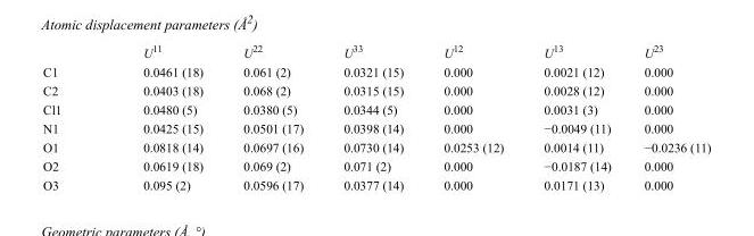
<table><thead><tr><td></td><td>U<sup>11</sup></td><td>U<sup>22</sup></td><td>U<sup>33</sup></td><td>U<sup>12</sup></td><td>U<sup>13</sup></td><td>U<sup>23</sup></td></tr></thead><tbody><tr><td>C1</td><td>0.0461 (18)</td><td>0.061 (2)</td><td>0.0321 (15)</td><td>0.000</td><td>0.0021 (12)</td><td>0.000</td></tr><tr><td>C2</td><td>0.0403 (18)</td><td>0.068 (2)</td><td>0.0315 (15)</td><td>0.000</td><td>0.0028 (12)</td><td>0.000</td></tr><tr><td>Cl1</td><td>0.0480 (5)</td><td>0.0380 (5)</td><td>0.0344 (5)</td><td>0.000</td><td>0.0031 (3)</td><td>0.000</td></tr><tr><td>N1</td><td>0.0425 (15)</td><td>0.0501 (17)</td><td>0.0398 (14)</td><td>0.000</td><td>−0.0049 (11)</td><td>0.000</td></tr><tr><td>O1</td><td>0.0818 (14)</td><td>0.0697 (16)</td><td>0.0730 (14)</td><td>0.0253 (12)</td><td>0.0014 (11)</td><td>−0.0236 (11)</td></tr><tr><td>O2</td><td>0.0619 (18)</td><td>0.069 (2)</td><td>0.071 (2)</td><td>0.000</td><td>−0.0187 (14)</td><td>0.000</td></tr><tr><td>O3</td><td>0.095 (2)</td><td>0.0596 (17)</td><td>0.0377 (14)</td><td>0.000</td><td>0.0171 (13)</td><td>0.000</td></tr></tbody></table>